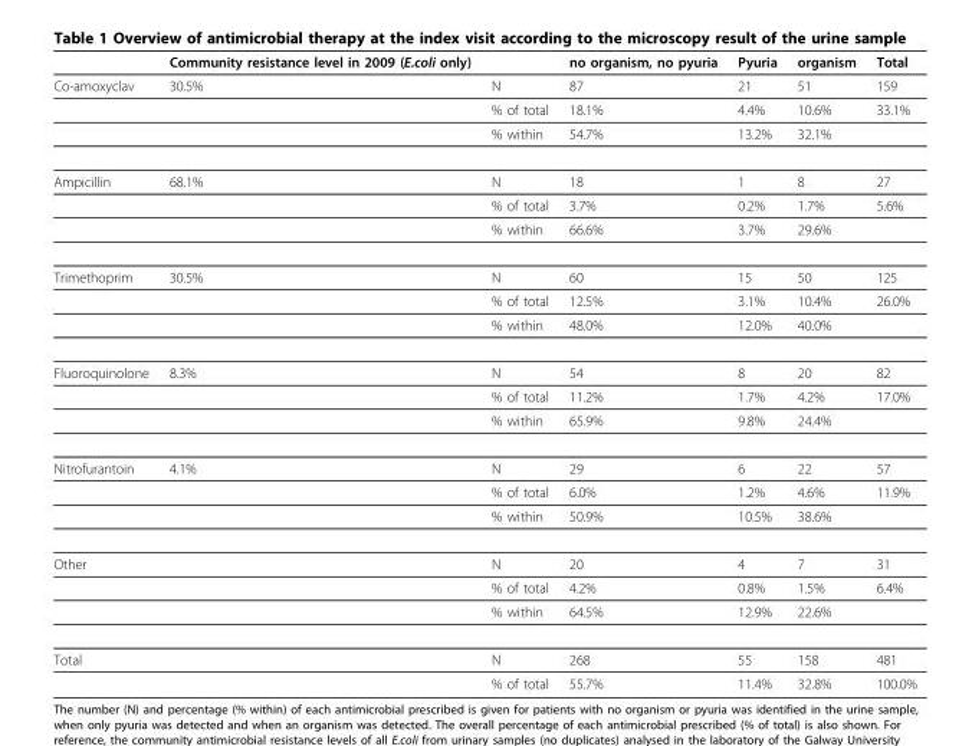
<table><thead><tr><td></td><td>Community resistance level in 2009 (E.coli only)</td><td></td><td>no organism, no pyuria</td><td>Pyuria</td><td>organism</td><td>Total</td></tr></thead><tbody><tr><td rowspan="3">Co-amoxyclav</td><td>30.5%</td><td>N</td><td>87</td><td>21</td><td>51</td><td>159</td></tr><tr><td></td><td>% of total</td><td>18.1%</td><td>4.4%</td><td>10.6%</td><td>33.1%</td></tr><tr><td></td><td>% within</td><td>54.7%</td><td>13.2%</td><td>32.1%</td><td></td></tr><tr><td rowspan="3">Ampicillin</td><td>68.1%</td><td>N</td><td>18</td><td>1</td><td>8</td><td>27</td></tr><tr><td></td><td>% of total</td><td>3.7%</td><td>0.2%</td><td>1.7%</td><td>5.6%</td></tr><tr><td></td><td>% within</td><td>66.6%</td><td>3.7%</td><td>29.6%</td><td></td></tr><tr><td rowspan="3">Trimethoprim</td><td>30.5%</td><td>N</td><td>60</td><td>15</td><td>50</td><td>125</td></tr><tr><td></td><td>% of total</td><td>12.5%</td><td>3.1%</td><td>10.4%</td><td>26.0%</td></tr><tr><td></td><td>% within</td><td>48.0%</td><td>12.0%</td><td>40.0%</td><td></td></tr><tr><td rowspan="3">Fluoroquinolone</td><td>8.3%</td><td>N</td><td>54</td><td>8</td><td>20</td><td>82</td></tr><tr><td></td><td>% of total</td><td>11.2%</td><td>1.7%</td><td>4.2%</td><td>17.0%</td></tr><tr><td></td><td>% within</td><td>65.9%</td><td>9.8%</td><td>24.4%</td><td></td></tr><tr><td rowspan="3">Nitrofurantoin</td><td>4.1%</td><td>N</td><td>29</td><td>6</td><td>22</td><td>57</td></tr><tr><td></td><td>% of total</td><td>6.0%</td><td>1.2%</td><td>4.6%</td><td>11.9%</td></tr><tr><td></td><td>% within</td><td>50.9%</td><td>10.5%</td><td>38.6%</td><td></td></tr><tr><td rowspan="3">Other</td><td></td><td>N</td><td>20</td><td>4</td><td>7</td><td>31</td></tr><tr><td></td><td>% of total</td><td>4.2%</td><td>0.8%</td><td>1.5%</td><td>6.4%</td></tr><tr><td></td><td>% within</td><td>64.5%</td><td>12.9%</td><td>22.6%</td><td></td></tr><tr><td rowspan="2">Total</td><td></td><td>N</td><td>268</td><td>55</td><td>158</td><td>481</td></tr><tr><td></td><td>% of total</td><td>55.7%</td><td>11.4%</td><td>32.8%</td><td>100.0%</td></tr></tbody></table>